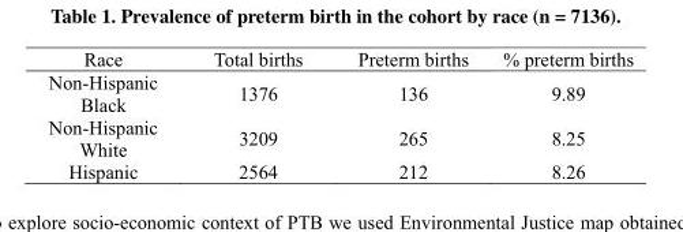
<table><thead><tr><td>Race</td><td>Total births</td><td>Preterm births</td><td>% preterm births</td></tr></thead><tbody><tr><td>Non-Hispanic Black</td><td>1376</td><td>136</td><td>9.89</td></tr><tr><td>Non-Hispanic White</td><td>3209</td><td>265</td><td>8.25</td></tr><tr><td>Hispanic</td><td>2564</td><td>212</td><td>8.26</td></tr></tbody></table>